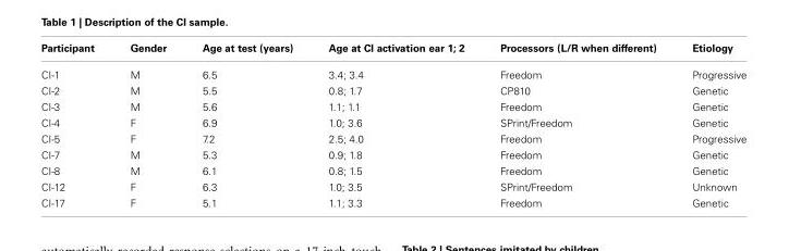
<table><thead><tr><td>Participant</td><td>Gender</td><td>Age at test (years)</td><td>Age at CI activation ear 1; 2</td><td>Processors (L/R when different)</td><td>Etiology</td></tr></thead><tbody><tr><td>CI-1</td><td>M</td><td>6.5</td><td>3.4; 3.4</td><td>Freedom</td><td>Progressive</td></tr><tr><td>CI-2</td><td>M</td><td>5.5</td><td>0.8; 1.7</td><td>CP810</td><td>Genetic</td></tr><tr><td>CI-3</td><td>M</td><td>5.6</td><td>1.1; 1.1</td><td>Freedom</td><td>Genetic</td></tr><tr><td>CI-4</td><td>F</td><td>6.9</td><td>1.0; 3.6</td><td>SPrint/Freedom</td><td>Genetic</td></tr><tr><td>CI-5</td><td>F</td><td>7.2</td><td>2.5; 4.0</td><td>Freedom</td><td>Progressive</td></tr><tr><td>CI-7</td><td>M</td><td>5.3</td><td>0.9; 1.8</td><td>Freedom</td><td>Genetic</td></tr><tr><td>CI-8</td><td>M</td><td>6.1</td><td>0.8; 1.5</td><td>Freedom</td><td>Genetic</td></tr><tr><td>CI-12</td><td>F</td><td>6.3</td><td>1.0; 3.5</td><td>SPrint/Freedom</td><td>Unknown</td></tr><tr><td>CI-17</td><td>F</td><td>5.1</td><td>1.1; 3.3</td><td>Freedom</td><td>Genetic</td></tr></tbody></table>